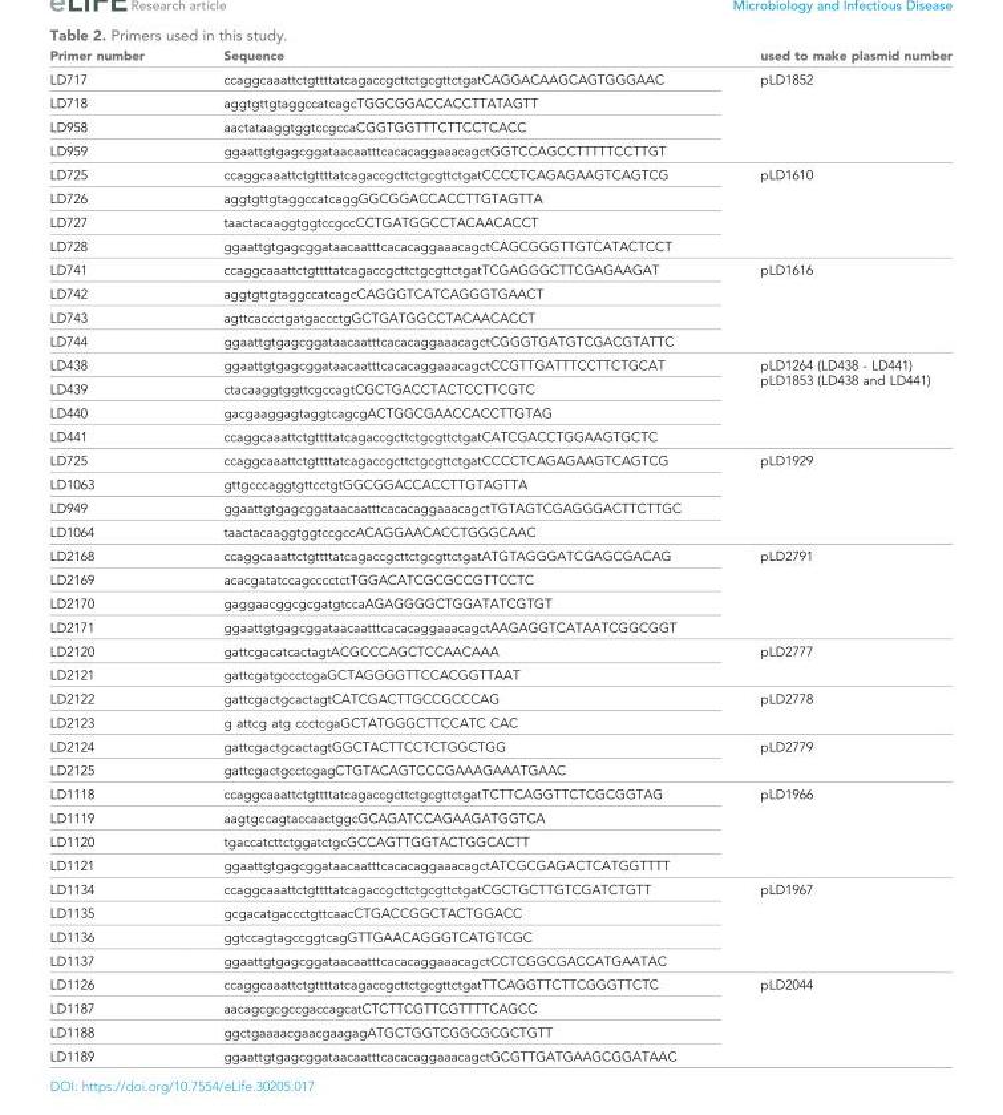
<table><thead><tr><td>Primer number</td><td>Sequence</td><td>used to make plasmid number</td></tr></thead><tbody><tr><td>LD717</td><td>ccaggcaaattctgttttatcagaccgcttctgcgttctgatCAGGACAAGCAGTGGGAAC</td><td rowspan="4">pLD1852</td></tr><tr><td>LD718</td><td>aggtgttgtaggccatcagcTGGCGGACCACCTTATAGTT</td></tr><tr><td>LD958</td><td>aactataaggtggtccgccaCGGTGGTTTCTTCCTCACC</td></tr><tr><td>LD959</td><td>ggaattgtgagcggataacaatttcacacaggaaacagctGGTCCAGCCTTTTTCCTTGT</td></tr><tr><td>LD725</td><td>ccaggcaaattctgttttatcagaccgcttctgcgttctgatCCCCTCAGAGAAGTCAGTCG</td><td rowspan="4">pLD1610</td></tr><tr><td>LD726</td><td>aggtgttgtaggccatcaggGGCGGACCACCTTGTAGTTA</td></tr><tr><td>LD727</td><td>taactacaaggtggtccgccCCTGATGGCCTACAACACCT</td></tr><tr><td>LD728</td><td>ggaattgtgagcggataacaatttcacacaggaaacagctCAGCGGGTTGTCATACTCCT</td></tr><tr><td>LD741</td><td>ccaggcaaattctgttttatcagaccgcttctgcgttctgatTCGAGGGCTTCGAGAAGAT</td><td rowspan="4">pLD1616</td></tr><tr><td>LD742</td><td>aggtgttgtaggccatcagcCAGGGTCATCAGGGTGAACT</td></tr><tr><td>LD743</td><td>agttcaccctgatgaccctgGCTGATGGCCTACAACACCT</td></tr><tr><td>LD744</td><td>ggaattgtgagcggataacaatttcacacaggaaacagctCGGGTGATGTCGACGTATTC</td></tr><tr><td>LD438</td><td>ggaattgtgagcggataacaatttcacacaggaaacagctCCGTTGATTTCCTTCTGCAT</td><td rowspan="4">pLD1264 (LD438 - LD441) pLD1853 (LD438 and LD441)</td></tr><tr><td>LD439</td><td>ctacaaggtggttcgccagtCGCTGACCTACTCCTTCGTC</td></tr><tr><td>LD440</td><td>gacgaaggagtaggtcagcgACTGGCGAACCACCTTGTAG</td></tr><tr><td>LD441</td><td>ccaggcaaattctgttttatcagaccgcttctgcgttctgatCATCGACCTGGAAGTGCTC</td></tr><tr><td>LD725</td><td>ccaggcaaattctgttttatcagaccgcttctgcgttctgatCCCCTCAGAGAAGTCAGTCG</td><td rowspan="4">pLD1929</td></tr><tr><td>LD1063</td><td>gttgcccaggtgttcctgtGGCGGACCACCTTGTAGTTA</td></tr><tr><td>LD949</td><td>ggaattgtgagcggataacaatttcacacaggaaacagctTGTAGTCGAGGGACTTCTTGC</td></tr><tr><td>LD1064</td><td>taactacaaggtggtccgccACAGGAACACCTGGGCAAC</td></tr><tr><td>LD2168</td><td>ccaggcaaattctgttttatcagaccgcttctgcgttctgatATGTAGGGATCGAGCGACAG</td><td rowspan="4">pLD2791</td></tr><tr><td>LD2169</td><td>acacgatatccagcccctctTGGACATCGCGCCGTTCCTC</td></tr><tr><td>LD2170</td><td>gaggaacggcgcgatgtccaAGAGGGGCTGGATATCGTGT</td></tr><tr><td>LD2171</td><td>ggaattgtgagcggataacaatttcacacaggaaacagctAAGAGGTCATAATCGGCGGT</td></tr><tr><td>LD2120</td><td>gattcgacatcactagtACGCCCAGCTCCAACAAA</td><td rowspan="2">pLD2777</td></tr><tr><td>LD2121</td><td>gattcgatgccctcgaGCTAGGGGTTCCACGGTTAAT</td></tr><tr><td>LD2122</td><td>gattcgactgcactagtCATCGACTTGCCGCCCAG</td><td rowspan="2">pLD2778</td></tr><tr><td>LD2123</td><td>g attcg atg ccctcgaGCTATGGGCTTCCATC CAC</td></tr><tr><td>LD2124</td><td>gattcgactgcactagtGGCTACTTCCTCTGGCTGG</td><td rowspan="2">pLD2779</td></tr><tr><td>LD2125</td><td>gattcgactgcctcgagCTGTACAGTCCCGAAAGAAATGAAC</td></tr><tr><td>LD1118</td><td>ccaggcaaattctgttttatcagaccgcttctgcgttctgatTCTTCAGGTTCTCGCGGTAG</td><td rowspan="4">pLD1966</td></tr><tr><td>LD1119</td><td>aagtgccagtaccaactggcGCAGATCCAGAAGATGGTCA</td></tr><tr><td>LD1120</td><td>tgaccatcttctggatctgcGCCAGTTGGTACTGGCACTT</td></tr><tr><td>LD1121</td><td>ggaattgtgagcggataacaatttcacacaggaaacagctATCGCGAGACTCATGGTTTT</td></tr><tr><td>LD1134</td><td>ccaggcaaattctgttttatcagaccgcttctgcgttctgatCGCTGCTTGTCGATCTGTT</td><td rowspan="4">pLD1967</td></tr><tr><td>LD1135</td><td>gcgacatgaccctgttcaacCTGACCGGCTACTGGACC</td></tr><tr><td>LD1136</td><td>ggtccagtagccggtcagGTTGAACAGGGTCATGTCGC</td></tr><tr><td>LD1137</td><td>ggaattgtgagcggataacaatttcacacaggaaacagctCCTCGGCGACCATGAATAC</td></tr><tr><td>LD1126</td><td>ccaggcaaattctgttttatcagaccgcttctgcgttctgatTTCAGGTTCTTCGGGTTCTC</td><td rowspan="4">pLD2044</td></tr><tr><td>LD1187</td><td>aacagcgcgccgaccagcatCTCTTCGTTCGTTTTCAGCC</td></tr><tr><td>LD1188</td><td>ggctgaaaacgaacgaagagATGCTGGTCGGCGCGCTGTT</td></tr><tr><td>LD1189</td><td>ggaattgtgagcggataacaatttcacacaggaaacagctGCGTTGATGAAGCGGATAAC</td></tr></tbody></table>